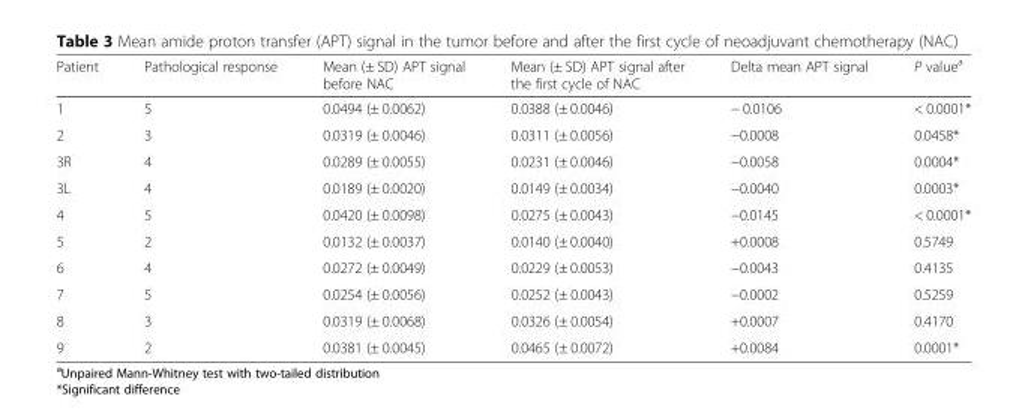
<table><thead><tr><td>Patient</td><td>Pathological response</td><td>Mean (± SD) APT signal before NAC</td><td>Mean (± SD) APT signal after the first cycle of NAC</td><td>Delta mean APT signal</td><td>P value<sup>a</sup></td></tr></thead><tbody><tr><td>1</td><td>5</td><td>0.0494 (± 0.0062)</td><td>0.0388 (± 0.0046)</td><td>− 0.0106</td><td>&lt; 0.0001*</td></tr><tr><td>2</td><td>3</td><td>0.0319 (± 0.0046)</td><td>0.0311 (± 0.0056)</td><td>−0.0008</td><td>0.0458*</td></tr><tr><td>3R</td><td>4</td><td>0.0289 (± 0.0055)</td><td>0.0231 (± 0.0046)</td><td>−0.0058</td><td>0.0004*</td></tr><tr><td>3L</td><td>4</td><td>0.0189 (± 0.0020)</td><td>0.0149 (± 0.0034)</td><td>−0.0040</td><td>0.0003*</td></tr><tr><td>4</td><td>5</td><td>0.0420 (± 0.0098)</td><td>0.0275 (± 0.0043)</td><td>−0.0145</td><td>&lt; 0.0001*</td></tr><tr><td>5</td><td>2</td><td>0.0132 (± 0.0037)</td><td>0.0140 (± 0.0040)</td><td>+0.0008</td><td>0.5749</td></tr><tr><td>6</td><td>4</td><td>0.0272 (± 0.0049)</td><td>0.0229 (± 0.0053)</td><td>−0.0043</td><td>0.4135</td></tr><tr><td>7</td><td>5</td><td>0.0254 (± 0.0056)</td><td>0.0252 (± 0.0043)</td><td>−0.0002</td><td>0.5259</td></tr><tr><td>8</td><td>3</td><td>0.0319 (± 0.0068)</td><td>0.0326 (± 0.0054)</td><td>+0.0007</td><td>0.4170</td></tr><tr><td>9</td><td>2</td><td>0.0381 (± 0.0045)</td><td>0.0465 (± 0.0072)</td><td>+0.0084</td><td>0.0001*</td></tr></tbody></table>